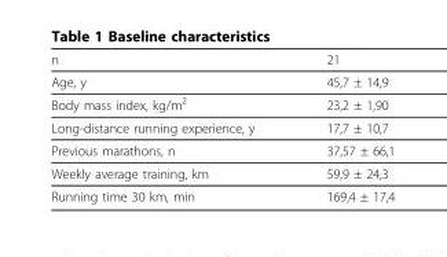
<table><thead><tr><td>n</td><td>21</td></tr></thead><tbody><tr><td>Age, y</td><td>45,7 ± 14,9</td></tr><tr><td>Body mass index, kg/m<sup>2</sup></td><td>23,2 ± 1,90</td></tr><tr><td>Long-distance running experience, y</td><td>17,7 ± 10,7</td></tr><tr><td>Previous marathons, n</td><td>37,57 ± 66,1</td></tr><tr><td>Weekly average training, km</td><td>59,9 ± 24,3</td></tr><tr><td>Running time 30 km, min</td><td>169,4 ± 17,4</td></tr></tbody></table>